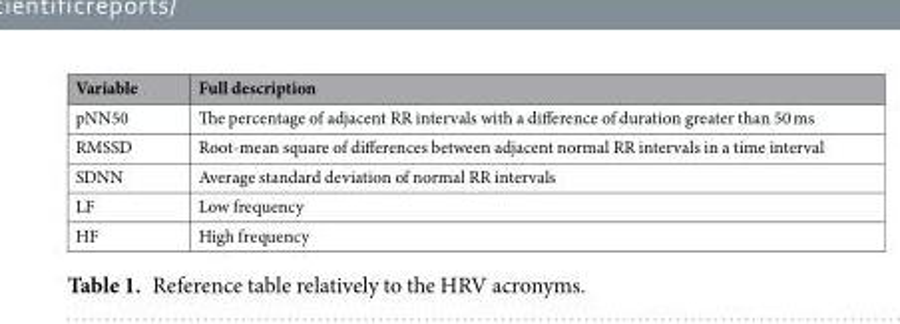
<table><thead><tr><td>Variable</td><td>Full description</td></tr></thead><tbody><tr><td>pNN50</td><td>The percentage of adjacent RR intervals with a difference of duration greater than 50 ms</td></tr><tr><td>RMSSD</td><td>Root-mean square of differences between adjacent normal RR intervals in a time interval</td></tr><tr><td>SDNN</td><td>Average standard deviation of normal RR intervals</td></tr><tr><td>LF</td><td>Low frequency</td></tr><tr><td>HF</td><td>High frequency</td></tr></tbody></table>